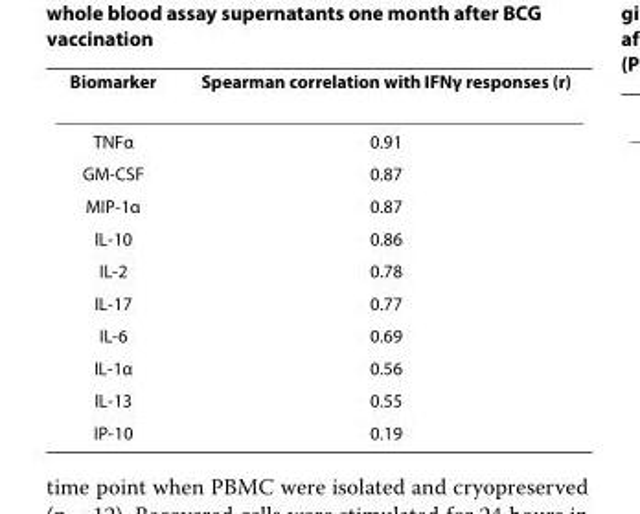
<table><thead><tr><td>Biomarker</td><td>Spearman correlation with IFNγ responses (r)</td></tr></thead><tbody><tr><td>TNFα</td><td>0.91</td></tr><tr><td>GM-CSF</td><td>0.87</td></tr><tr><td>MIP-1α</td><td>0.87</td></tr><tr><td>IL-10</td><td>0.86</td></tr><tr><td>IL-2</td><td>0.78</td></tr><tr><td>IL-17</td><td>0.77</td></tr><tr><td>IL-6</td><td>0.69</td></tr><tr><td>IL-1α</td><td>0.56</td></tr><tr><td>IL-13</td><td>0.55</td></tr><tr><td>IP-10</td><td>0.19</td></tr></tbody></table>